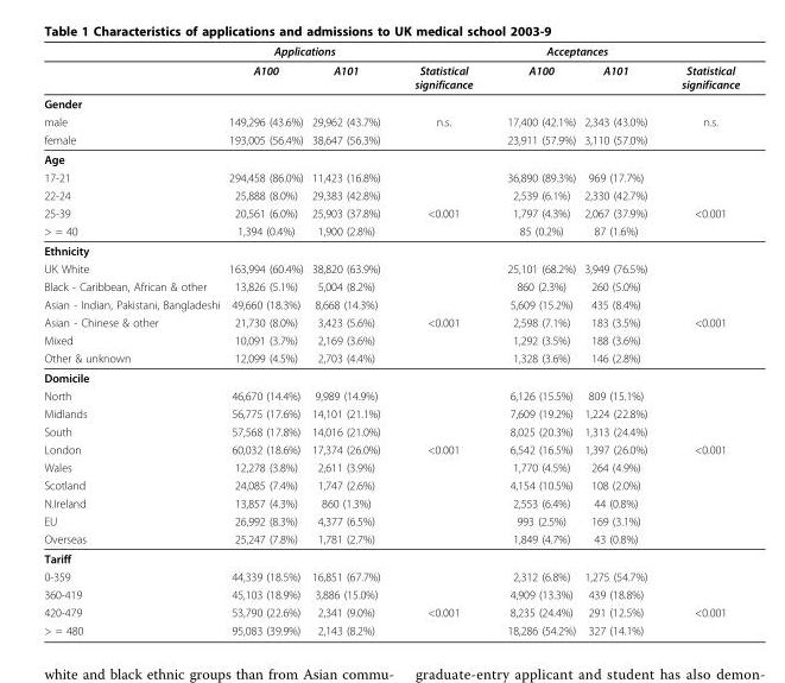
<table><thead><tr><td rowspan="2"></td><td colspan="2">Applications</td><td rowspan="2">Statistical significance</td><td colspan="2">Acceptances</td><td rowspan="2">Statistical significance</td></tr><tr><td>A100</td><td>A101</td><td>A100</td><td>A101</td></tr></thead><tbody><tr><td colspan="7">Gender</td></tr><tr><td>male</td><td>149,296 (43.6%)</td><td>29,962 (43.7%)</td><td>n.s.</td><td>17,400 (42.1%)</td><td>2,343 (43.0%)</td><td>n.s.</td></tr><tr><td>female</td><td>193,005 (56.4%)</td><td>38,647 (56.3%)</td><td></td><td>23,911 (57.9%)</td><td>3,110 (57.0%)</td><td></td></tr><tr><td colspan="7">Age</td></tr><tr><td>17-21</td><td>294,458 (86.0%)</td><td>11,423 (16.8%)</td><td></td><td>36,890 (89.3%)</td><td>969 (17.7%)</td><td></td></tr><tr><td>22-24</td><td>25,888 (8.0%)</td><td>29,383 (42.8%)</td><td></td><td>2,539 (6.1%)</td><td>2,330 (42.7%)</td><td></td></tr><tr><td>25-39</td><td>20,561 (6.0%)</td><td>25,903 (37.8%)</td><td>&lt;0.001</td><td>1,797 (4.3%)</td><td>2,067 (37.9%)</td><td>&lt;0.001</td></tr><tr><td>&gt; = 40</td><td>1,394 (0.4%)</td><td>1,900 (2.8%)</td><td></td><td>85 (0.2%)</td><td>87 (1.6%)</td><td></td></tr><tr><td colspan="7">Ethnicity</td></tr><tr><td>UK White</td><td>163,994 (60.4%)</td><td>38,820 (63.9%)</td><td></td><td>25,101 (68.2%)</td><td>3,949 (76.5%)</td><td></td></tr><tr><td>Black - Caribbean, African &amp; other</td><td>13,826 (5.1%)</td><td>5,004 (8.2%)</td><td></td><td>860 (2.3%)</td><td>260 (5.0%)</td><td></td></tr><tr><td>Asian - Indian, Pakistani, Bangladeshi</td><td>49,660 (18.3%)</td><td>8,668 (14.3%)</td><td></td><td>5,609 (15.2%)</td><td>435 (8.4%)</td><td></td></tr><tr><td>Asian - Chinese &amp; other</td><td>21,730 (8.0%)</td><td>3,423 (5.6%)</td><td>&lt;0.001</td><td>2,598 (7.1%)</td><td>183 (3.5%)</td><td>&lt;0.001</td></tr><tr><td>Mixed</td><td>10,091 (3.7%)</td><td>2,169 (3.6%)</td><td></td><td>1,292 (3.5%)</td><td>188 (3.6%)</td><td></td></tr><tr><td>Other &amp; unknown</td><td>12,099 (4.5%)</td><td>2,703 (4.4%)</td><td></td><td>1,328 (3.6%)</td><td>146 (2.8%)</td><td></td></tr><tr><td colspan="7">Domicile</td></tr><tr><td>North</td><td>46,670 (14.4%)</td><td>9,989 (14.9%)</td><td></td><td>6,126 (15.5%)</td><td>809 (15.1%)</td><td></td></tr><tr><td>Midlands</td><td>56,775 (17.6%)</td><td>14,101 (21.1%)</td><td></td><td>7,609 (19.2%)</td><td>1,224 (22.8%)</td><td></td></tr><tr><td>South</td><td>57,568 (17.8%)</td><td>14,016 (21.0%)</td><td></td><td>8,025 (20.3%)</td><td>1,313 (24.4%)</td><td></td></tr><tr><td>London</td><td>60,032 (18.6%)</td><td>17,374 (26.0%)</td><td>&lt;0.001</td><td>6,542 (16.5%)</td><td>1,397 (26.0%)</td><td>&lt;0.001</td></tr><tr><td>Wales</td><td>12,278 (3.8%)</td><td>2,611 (3.9%)</td><td></td><td>1,770 (4.5%)</td><td>264 (4.9%)</td><td></td></tr><tr><td>Scotland</td><td>24,085 (7.4%)</td><td>1,747 (2.6%)</td><td></td><td>4,154 (10.5%)</td><td>108 (2.0%)</td><td></td></tr><tr><td>N.Ireland</td><td>13,857 (4.3%)</td><td>860 (1.3%)</td><td></td><td>2,553 (6.4%)</td><td>44 (0.8%)</td><td></td></tr><tr><td>EU</td><td>26,992 (8.3%)</td><td>4,377 (6.5%)</td><td></td><td>993 (2.5%)</td><td>169 (3.1%)</td><td></td></tr><tr><td>Overseas</td><td>25,247 (7.8%)</td><td>1,781 (2.7%)</td><td></td><td>1,849 (4.7%)</td><td>43 (0.8%)</td><td></td></tr><tr><td colspan="7">Tariff</td></tr><tr><td>0-359</td><td>44,339 (18.5%)</td><td>16,851 (67.7%)</td><td></td><td>2,312 (6.8%)</td><td>1,275 (54.7%)</td><td></td></tr><tr><td>360-419</td><td>45,103 (18.9%)</td><td>3,886 (15.0%)</td><td></td><td>4,909 (13.3%)</td><td>439 (18.8%)</td><td></td></tr><tr><td>420-479</td><td>53,790 (22.6%)</td><td>2,341 (9.0%)</td><td>&lt;0.001</td><td>8,235 (24.4%)</td><td>291 (12.5%)</td><td>&lt;0.001</td></tr><tr><td>&gt; = 480</td><td>95,083 (39.9%)</td><td>2,143 (8.2%)</td><td></td><td>18,286 (54.2%)</td><td>327 (14.1%)</td><td></td></tr></tbody></table>